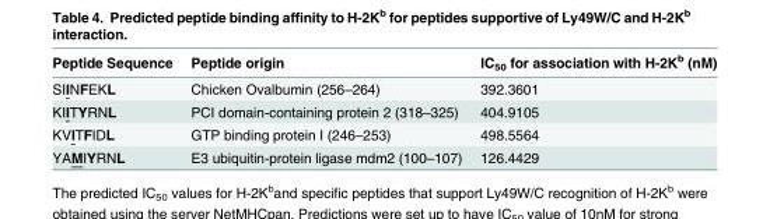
<table><thead><tr><td>Peptide Sequence</td><td>Peptide origin</td><td>IC<sub>50</sub> for association with H-2K<sup>b</sup> (nM)</td></tr></thead><tbody><tr><td>SIINFEKL</td><td>Chicken Ovalbumin (256–264)</td><td>392.3601</td></tr><tr><td>KIITYRNL</td><td>PCI domain-containing protein 2 (318–325)</td><td>404.9105</td></tr><tr><td>KVITFIDL</td><td>GTP binding protein I (246–253)</td><td>498.5564</td></tr><tr><td>YAMIYRNL</td><td>E3 ubiquitin-protein ligase mdm2 (100–107)</td><td>126.4429</td></tr></tbody></table>